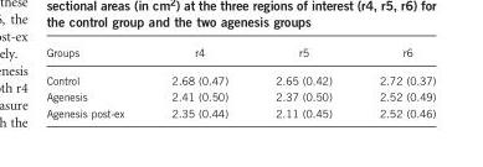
<table><thead><tr><td>Groups</td><td>r4</td><td>r5</td><td>r6</td></tr></thead><tbody><tr><td>Control</td><td>2.68 (0.47)</td><td>2.65 (0.42)</td><td>2.72 (0.37)</td></tr><tr><td>Agenesis</td><td>2.41 (0.50)</td><td>2.37 (0.50)</td><td>2.52 (0.49)</td></tr><tr><td>Agenesis post-ex</td><td>2.35 (0.44)</td><td>2.11 (0.45)</td><td>2.52 (0.46)</td></tr></tbody></table>